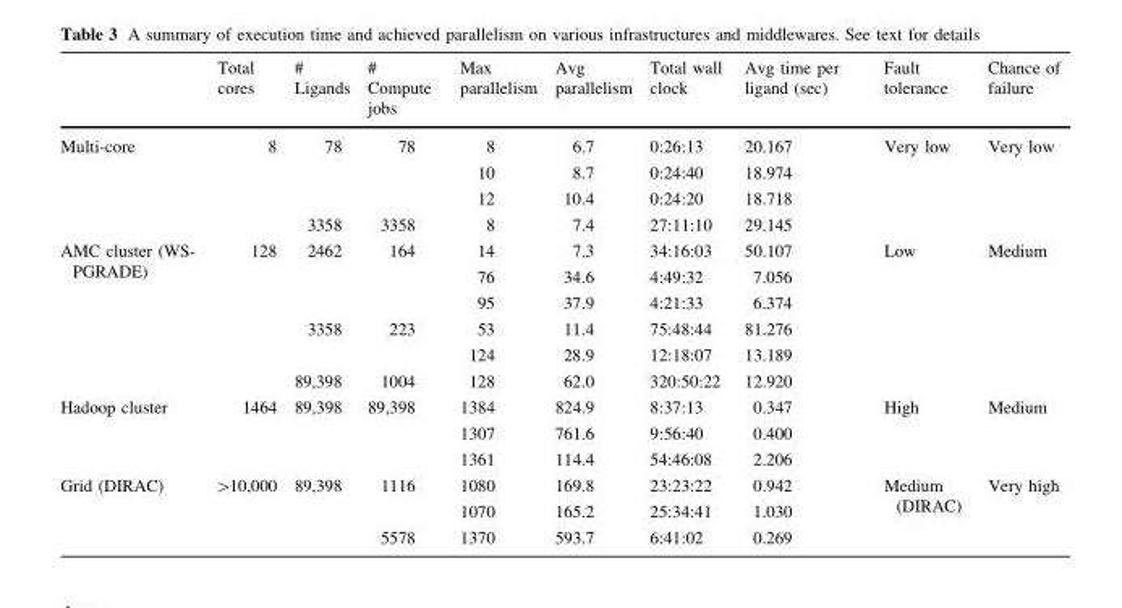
<table><thead><tr><td></td><td>Total cores</td><td># Ligands</td><td># Compute jobs</td><td>Max parallelism</td><td>Avg parallelism</td><td>Total wall clock</td><td>Avg time per ligand (sec)</td><td>Fault tolerance</td><td>Chance of failure</td></tr></thead><tbody><tr><td rowspan="4">Multi-core</td><td rowspan="4">8</td><td rowspan="3">78</td><td rowspan="3">78</td><td>8</td><td>6.7</td><td>0:26:13</td><td>20.167</td><td rowspan="4">Very low</td><td rowspan="4">Very low</td></tr><tr><td>10</td><td>8.7</td><td>0:24:40</td><td>18.974</td></tr><tr><td>12</td><td>10.4</td><td>0:24:20</td><td>18.718</td></tr><tr><td>3358</td><td>3358</td><td>8</td><td>7.4</td><td>27:11:10</td><td>29.145</td></tr><tr><td rowspan="6">AMC cluster (WS- PGRADE)</td><td rowspan="6">128</td><td rowspan="3">2462</td><td rowspan="3">164</td><td>14</td><td>7.3</td><td>34:16:03</td><td>50.107</td><td rowspan="6">Low</td><td rowspan="6">Medium</td></tr><tr><td>76</td><td>34.6</td><td>4:49:32</td><td>7.056</td></tr><tr><td>95</td><td>37.9</td><td>4:21:33</td><td>6.374</td></tr><tr><td rowspan="2">3358</td><td rowspan="2">223</td><td>53</td><td>11.4</td><td>75:48:44</td><td>81.276</td></tr><tr><td>124</td><td>28.9</td><td>12:18:07</td><td>13.189</td></tr><tr><td>89,398</td><td>1004</td><td>128</td><td>62.0</td><td>320:50:22</td><td>12.920</td></tr><tr><td rowspan="3">Hadoop cluster</td><td rowspan="3">1464</td><td rowspan="3">89,398</td><td rowspan="3">89,398</td><td>1384</td><td>824.9</td><td>8:37:13</td><td>0.347</td><td rowspan="3">High</td><td rowspan="3">Medium</td></tr><tr><td>1307</td><td>761.6</td><td>9:56:40</td><td>0.400</td></tr><tr><td>1361</td><td>114.4</td><td>54:46:08</td><td>2.206</td></tr><tr><td rowspan="3">Grid (DIRAC)</td><td rowspan="3">&gt;10,000</td><td rowspan="3">89,398</td><td rowspan="2">1116</td><td>1080</td><td>169.8</td><td>23:23:22</td><td>0.942</td><td rowspan="3">Medium (DIRAC)</td><td rowspan="3">Very high</td></tr><tr><td>1070</td><td>165.2</td><td>25:34:41</td><td>1.030</td></tr><tr><td>5578</td><td>1370</td><td>593.7</td><td>6:41:02</td><td>0.269</td></tr></tbody></table>